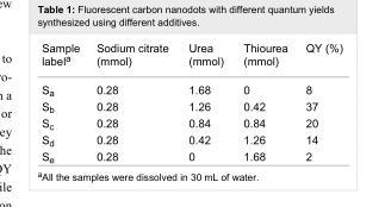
<table><tbody><tr><td>Sample label<sup>a</sup></td><td>Sodium citrate (mmol)</td><td>Urea (mmol)</td><td>Thiourea (mmol)</td><td>QY (%)</td></tr><tr><td>S<sub>a</sub></td><td>0.28</td><td>1.68</td><td>0</td><td>8</td></tr><tr><td>S<sub>b</sub></td><td>0.28</td><td>1.26</td><td>0.42</td><td>37</td></tr><tr><td>S<sub>c</sub></td><td>0.28</td><td>0.84</td><td>0.84</td><td>20</td></tr><tr><td>S<sub>d</sub></td><td>0.28</td><td>0.42</td><td>1.26</td><td>14</td></tr><tr><td>S<sub>e</sub></td><td>0.28</td><td>0</td><td>1.68</td><td>2</td></tr></tbody></table>